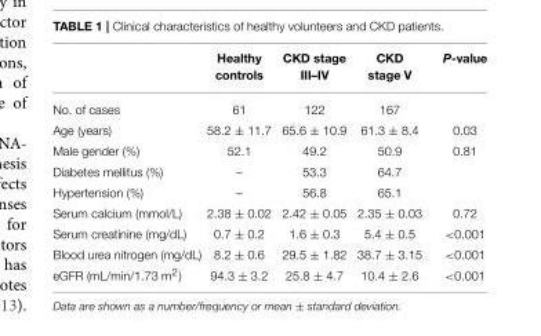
<table><thead><tr><td></td><td>Healthy controls</td><td>CKD stage III–IV</td><td>CKD stage V</td><td>P-value</td></tr></thead><tbody><tr><td>No. of cases</td><td>61</td><td>122</td><td>167</td><td></td></tr><tr><td>Age (years)</td><td>58.2 ± 11.7</td><td>65.6 ± 10.9</td><td>61.3 ± 8.4</td><td>0.03</td></tr><tr><td>Male gender (%)</td><td>52.1</td><td>49.2</td><td>50.9</td><td>0.81</td></tr><tr><td>Diabetes mellitus (%)</td><td>–</td><td>53.3</td><td>64.7</td><td></td></tr><tr><td>Hypertension (%)</td><td>–</td><td>56.8</td><td>65.1</td><td></td></tr><tr><td>Serum calcium (mmol/L)</td><td>2.38 ± 0.02</td><td>2.42 ± 0.05</td><td>2.35 ± 0.03</td><td>0.72</td></tr><tr><td>Serum creatinine (mg/dL)</td><td>0.7 ± 0.2</td><td>1.6 ± 0.3</td><td>5.4 ± 0.5</td><td>&lt;0.001</td></tr><tr><td>Blood urea nitrogen (mg/dL)</td><td>8.2 ± 0.6</td><td>29.5 ± 1.82</td><td>38.7 ± 3.15</td><td>&lt;0.001</td></tr><tr><td>eGFR (mL/min/1.73 m<sup>2</sup>)</td><td>94.3 ± 3.2</td><td>25.8 ± 4.7</td><td>10.4 ± 2.6</td><td>&lt;0.001</td></tr></tbody></table>